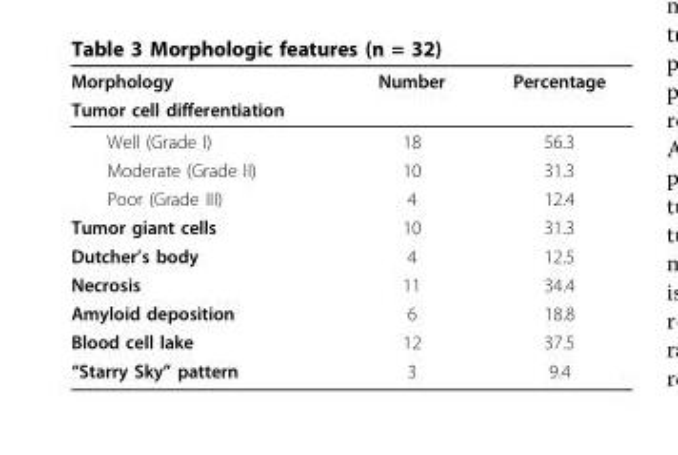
<table><thead><tr><td rowspan="2">Morphology Tumor cell differentiation</td><td rowspan="2">Number</td><td rowspan="2">Percentage</td></tr><tr></tr></thead><tbody><tr><td>Well (Grade I)</td><td>18</td><td>56.3</td></tr><tr><td>Moderate (Grade II)</td><td>10</td><td>31.3</td></tr><tr><td>Poor (Grade III)</td><td>4</td><td>12.4</td></tr><tr><td>Tumor giant cells</td><td>10</td><td>31.3</td></tr><tr><td>Dutcher’s body</td><td>4</td><td>12.5</td></tr><tr><td>Necrosis</td><td>11</td><td>34.4</td></tr><tr><td>Amyloid deposition</td><td>6</td><td>18.8</td></tr><tr><td>Blood cell lake</td><td>12</td><td>37.5</td></tr><tr><td>“Starry Sky” pattern</td><td>3</td><td>9.4</td></tr></tbody></table>